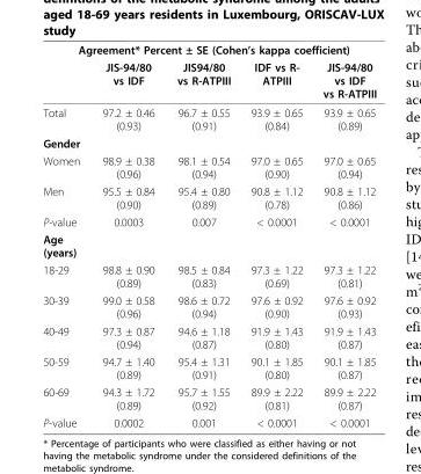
<table><thead><tr><td colspan="5">Agreement* Percent ± SE (Cohen’s kappa coefficient)</td></tr><tr><td></td><td>JIS-94/80 vs IDF</td><td>JIS94/80 vs R-ATPIII</td><td>IDF vs R- ATPIII</td><td>JIS-94/80 vs IDF vs R-ATPIII</td></tr></thead><tbody><tr><td>Total</td><td>97.2 ± 0.46 (0.93)</td><td>96.7 ± 0.55 (0.91)</td><td>93.9 ± 0.65 (0.84)</td><td>93.9 ± 0.65 (0.89)</td></tr><tr><td colspan="5">Gender</td></tr><tr><td>Women</td><td>98.9 ± 0.38 (0.96)</td><td>98.1 ± 0.54 (0.94)</td><td>97.0 ± 0.65 (0.90)</td><td>97.0 ± 0.65 (0.94)</td></tr><tr><td>Men</td><td>95.5 ± 0.84 (0.90)</td><td>95.4 ± 0.80 (0.89)</td><td>90.8 ± 1.12 (0.78)</td><td>90.8 ± 1.12 (0.86)</td></tr><tr><td>P-value</td><td>0.0003</td><td>0.007</td><td>&lt; 0.0001</td><td>&lt; 0.0001</td></tr><tr><td colspan="5">Age (years)</td></tr><tr><td>18-29</td><td>98.8 ± 0.90 (0.89)</td><td>98.5 ± 0.84 (0.83)</td><td>97.3 ± 1.22 (0.69)</td><td>97.3 ± 1.22 (0.81)</td></tr><tr><td>30-39</td><td>99.0 ± 0.58 (0.96)</td><td>98.6 ± 0.72 (0.94)</td><td>97.6 ± 0.92 (0.90)</td><td>97.6 ± 0.92 (0.93)</td></tr><tr><td>40-49</td><td>97.3 ± 0.87 (0.94)</td><td>94.6 ± 1.18 (0.87)</td><td>91.9 ± 1.43 (0.80)</td><td>91.9 ± 1.43 (0.87)</td></tr><tr><td>50-59</td><td>94.7 ± 1.40 (0.89)</td><td>95.4 ± 1.31 (0.91)</td><td>90.1 ± 1.85 (0.80)</td><td>90.1 ± 1.85 (0.87)</td></tr><tr><td>60-69</td><td>94.3 ± 1.72 (0.89)</td><td>95.7 ± 1.55 (0.92)</td><td>89.9 ± 2.22 (0.81)</td><td>89.9 ± 2.22 (0.87)</td></tr><tr><td>P-value</td><td>0.0002</td><td>0.001</td><td>&lt; 0.0001</td><td>&lt; 0.0001</td></tr></tbody></table>